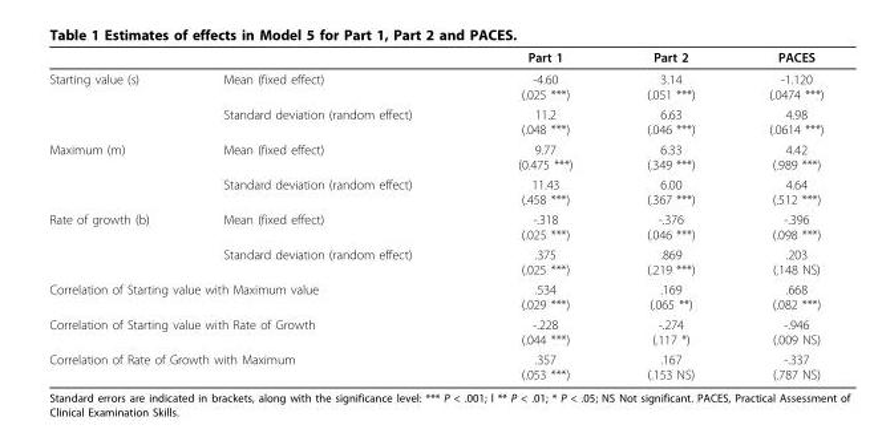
<table><thead><tr><td></td><td></td><td>Part 1</td><td>Part 2</td><td>PACES</td></tr></thead><tbody><tr><td rowspan="2">Starting value (s)</td><td>Mean (fixed effect)</td><td>-4.60 (.025 ***)</td><td>3.14 (.051 ***)</td><td>-1.120 (.0474 ***)</td></tr><tr><td>Standard deviation (random effect)</td><td>11.2 (.048 ***)</td><td>6.63 (.046 ***)</td><td>4.98 (.0614 ***)</td></tr><tr><td rowspan="2">Maximum (m)</td><td>Mean (fixed effect)</td><td>9.77 (0.475 ***)</td><td>6.33 (.349 ***)</td><td>4.42 (.989 ***)</td></tr><tr><td>Standard deviation (random effect)</td><td>11.43 (.458 ***)</td><td>6.00 (.367 ***)</td><td>4.64 (.512 ***)</td></tr><tr><td rowspan="2">Rate of growth (b)</td><td>Mean (fixed effect)</td><td>-.318 (.025 ***)</td><td>-.376 (.046 ***)</td><td>-.396 (.098 ***)</td></tr><tr><td>Standard deviation (random effect)</td><td>.375 (.025 ***)</td><td>.869 (.219 ***)</td><td>.203 (.148 NS)</td></tr><tr><td colspan="2">Correlation of Starting value with Maximum value</td><td>.534 (.029 ***)</td><td>.169 (.065 **)</td><td>.668 (.082 ***)</td></tr><tr><td colspan="2">Correlation of Starting value with Rate of Growth</td><td>-.228 (.044 ***)</td><td>-.274 (.117 *)</td><td>-.946 (.009 NS)</td></tr><tr><td colspan="2">Correlation of Rate of Growth with Maximum</td><td>.357 (.053 ***)</td><td>.167 (.153 NS)</td><td>-.337 (.787 NS)</td></tr></tbody></table>